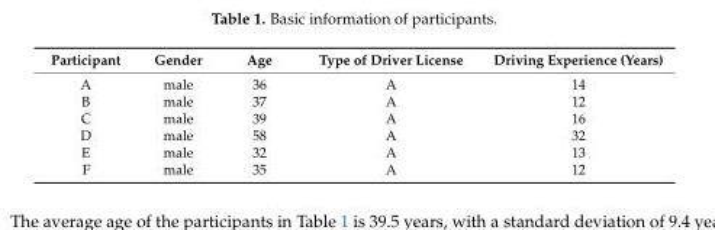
<table><thead><tr><td>Participant</td><td>Gender</td><td>Age</td><td>Type of Driver License</td><td>Driving Experience (Years)</td></tr></thead><tbody><tr><td>A</td><td>male</td><td>36</td><td>A</td><td>14</td></tr><tr><td>B</td><td>male</td><td>37</td><td>A</td><td>12</td></tr><tr><td>C</td><td>male</td><td>39</td><td>A</td><td>16</td></tr><tr><td>D</td><td>male</td><td>58</td><td>A</td><td>32</td></tr><tr><td>E</td><td>male</td><td>32</td><td>A</td><td>13</td></tr><tr><td>F</td><td>male</td><td>35</td><td>A</td><td>12</td></tr></tbody></table>